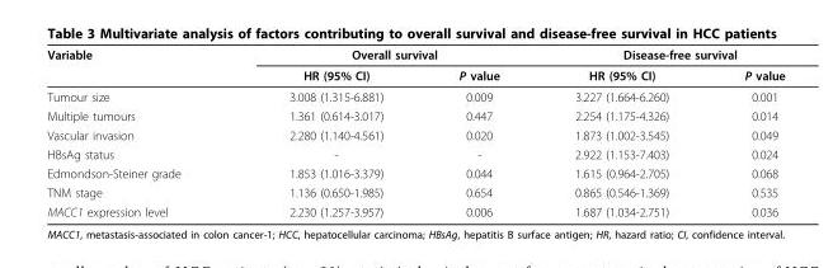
<table><thead><tr><td rowspan="2">Variable</td><td colspan="2">Overall survival</td><td colspan="2">Disease-free survival</td></tr><tr><td>HR (95% CI)</td><td>P value</td><td>HR (95% CI)</td><td>P value</td></tr></thead><tbody><tr><td>Tumour size</td><td>3.008 (1.315-6.881)</td><td>0.009</td><td>3.227 (1.664-6.260)</td><td>0.001</td></tr><tr><td>Multiple tumours</td><td>1.361 (0.614-3.017)</td><td>0.447</td><td>2.254 (1.175-4.326)</td><td>0.014</td></tr><tr><td>Vascular invasion</td><td>2.280 (1.140-4.561)</td><td>0.020</td><td>1.873 (1.002-3.545)</td><td>0.049</td></tr><tr><td>HBsAg status</td><td>-</td><td>-</td><td>2.922 (1.153-7.403)</td><td>0.024</td></tr><tr><td>Edmondson-Steiner grade</td><td>1.853 (1.016-3.379)</td><td>0.044</td><td>1.615 (0.964-2.705)</td><td>0.068</td></tr><tr><td>TNM stage</td><td>1.136 (0.650-1.985)</td><td>0.654</td><td>0.865 (0.546-1.369)</td><td>0.535</td></tr><tr><td>MACC1 expression level</td><td>2.230 (1.257-3.957)</td><td>0.006</td><td>1.687 (1.034-2.751)</td><td>0.036</td></tr></tbody></table>